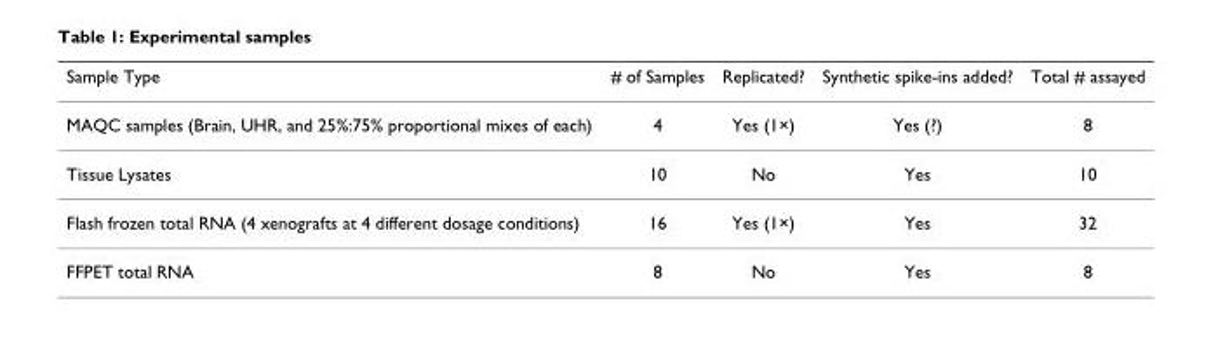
<table><thead><tr><td>Sample Type</td><td># of Samples</td><td>Replicated?</td><td>Synthetic spike-ins added?</td><td>Total # assayed</td></tr></thead><tbody><tr><td>MAQC samples (Brain, UHR, and 25%:75% proportional mixes of each)</td><td>4</td><td>Yes (1×)</td><td>Yes (?)</td><td>8</td></tr><tr><td>Tissue Lysates</td><td>10</td><td>No</td><td>Yes</td><td>10</td></tr><tr><td>Flash frozen total RNA (4 xenografts at 4 different dosage conditions)</td><td>16</td><td>Yes (1×)</td><td>Yes</td><td>32</td></tr><tr><td>FFPET total RNA</td><td>8</td><td>No</td><td>Yes</td><td>8</td></tr></tbody></table>